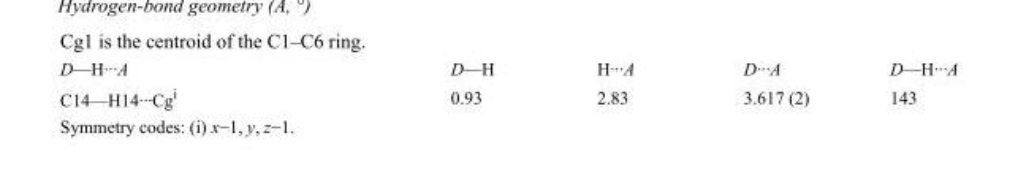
<table><tbody><tr><td>D—H···A</td><td>D—H</td><td>H···A</td><td>D···A</td><td>D—H···A</td></tr><tr><td>C14—H14···Cg<sup>i</sup></td><td>0.93</td><td>2.83</td><td>3.617 (2)</td><td>143</td></tr></tbody></table>